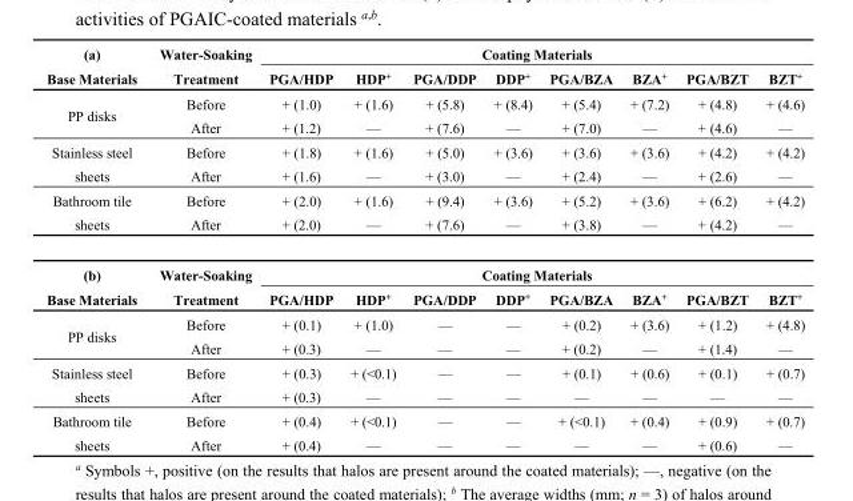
<table><tbody><tr><td>(a)</td><td>Water-Soaking</td><td colspan="8">Coating Materials</td></tr><tr><td>Base Materials</td><td>Treatment</td><td>PGA/HDP</td><td>HDP<sup>+</sup></td><td>PGA/DDP</td><td>DDP<sup>+</sup></td><td>PGA/BZA</td><td>BZA<sup>+</sup></td><td>PGA/BZT</td><td>BZT<sup>+</sup></td></tr><tr><td rowspan="2">PP disks</td><td>Before</td><td>+ (1.0)</td><td>+ (1.6)</td><td>+ (5.8)</td><td>+ (8.4)</td><td>+ (5.4)</td><td>+ (7.2)</td><td>+ (4.8)</td><td>+ (4.6)</td></tr><tr><td>After</td><td>+ (1.2)</td><td>—</td><td>+ (7.6)</td><td>—</td><td>+ (7.0)</td><td>—</td><td>+ (4.6)</td><td>—</td></tr><tr><td rowspan="2">Stainless steel sheets</td><td>Before</td><td>+ (1.8)</td><td>+ (1.6)</td><td>+ (5.0)</td><td>+ (3.6)</td><td>+ (3.6)</td><td>+ (3.6)</td><td>+ (4.2)</td><td>+ (4.2)</td></tr><tr><td>After</td><td>+ (1.6)</td><td>—</td><td>+ (3.0)</td><td>—</td><td>+ (2.4)</td><td>—</td><td>+ (2.6)</td><td>—</td></tr><tr><td rowspan="2">Bathroom tile sheets</td><td>Before</td><td>+ (2.0)</td><td>+ (1.6)</td><td>+ (9.4)</td><td>+ (3.6)</td><td>+ (5.2)</td><td>+ (3.6)</td><td>+ (6.2)</td><td>+ (4.2)</td></tr><tr><td>After</td><td>+ (2.0)</td><td>—</td><td>+ (7.6)</td><td>—</td><td>+ (3.8)</td><td>—</td><td>+ (4.2)</td><td>—</td></tr><tr><td>(b)</td><td>Water-Soaking</td><td colspan="8">Coating Materials</td></tr><tr><td>Base Materials</td><td>Treatment</td><td>PGA/HDP</td><td>HDP<sup>+</sup></td><td>PGA/DDP</td><td>DDP<sup>+</sup></td><td>PGA/BZA</td><td>BZA<sup>+</sup></td><td>PGA/BZT</td><td>BZT<sup>+</sup></td></tr><tr><td rowspan="2">PP disks</td><td>Before</td><td>+ (0.1)</td><td>+ (1.0)</td><td>—</td><td>—</td><td>+ (0.2)</td><td>+ (3.6)</td><td>+ (1.2)</td><td>+ (4.8)</td></tr><tr><td>After</td><td>+ (0.3)</td><td>—</td><td>—</td><td>—</td><td>+ (0.2)</td><td>—</td><td>+ (1.4)</td><td>—</td></tr><tr><td rowspan="2">Stainless steel sheets</td><td>Before</td><td>+ (0.3)</td><td>+ (&lt;0.1)</td><td>—</td><td>—</td><td>+ (0.1)</td><td>+ (0.6)</td><td>+ (0.1)</td><td>+ (0.7)</td></tr><tr><td>After</td><td>+ (0.3)</td><td>—</td><td>—</td><td>—</td><td>—</td><td>—</td><td>—</td><td>—</td></tr><tr><td rowspan="2">Bathroom tile sheets</td><td>Before</td><td>+ (0.4)</td><td>+ (&lt;0.1)</td><td>—</td><td>—</td><td>+ (&lt;0.1)</td><td>+ (0.4)</td><td>+ (0.9)</td><td>+ (0.7)</td></tr><tr><td>After</td><td>+ (0.4)</td><td>—</td><td>—</td><td>—</td><td>—</td><td>—</td><td>+ (0.6)</td><td>—</td></tr></tbody></table>